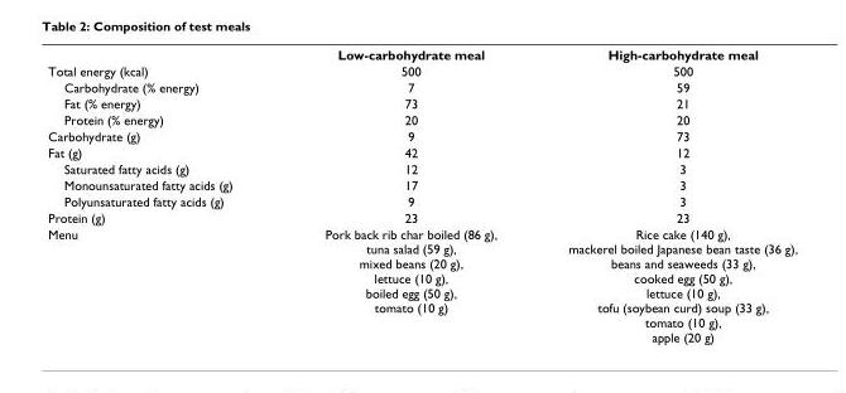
<table><thead><tr><td></td><td>Low-carbohydrate meal</td><td>High-carbohydrate meal</td></tr></thead><tbody><tr><td>Total energy (kcal)</td><td>500</td><td>500</td></tr><tr><td>Carbohydrate (% energy)</td><td>7</td><td>59</td></tr><tr><td>Fat (% energy)</td><td>73</td><td>21</td></tr><tr><td>Protein (% energy)</td><td>20</td><td>20</td></tr><tr><td>Carbohydrate (g)</td><td>9</td><td>73</td></tr><tr><td>Fat (g)</td><td>42</td><td>12</td></tr><tr><td>Saturated fatty acids (g)</td><td>12</td><td>3</td></tr><tr><td>Monounsaturated fatty acids (g)</td><td>17</td><td>3</td></tr><tr><td>Polyunsaturated fatty acids (g)</td><td>9</td><td>3</td></tr><tr><td>Protein (g)</td><td>23</td><td>23</td></tr><tr><td>Menu</td><td>Pork back rib char boiled (86 g), tuna salad (59 g), mixed beans (20 g), lettuce (10 g), boiled egg (50 g), tomato (10 g)</td><td>Rice cake (140 g), mackerel boiled Japanese bean taste (36 g), beans and seaweeds (33 g), cooked egg (50 g), lettuce (10 g), tofu (soybean curd) soup (33 g), tomato (10 g), apple (20 g)</td></tr></tbody></table>